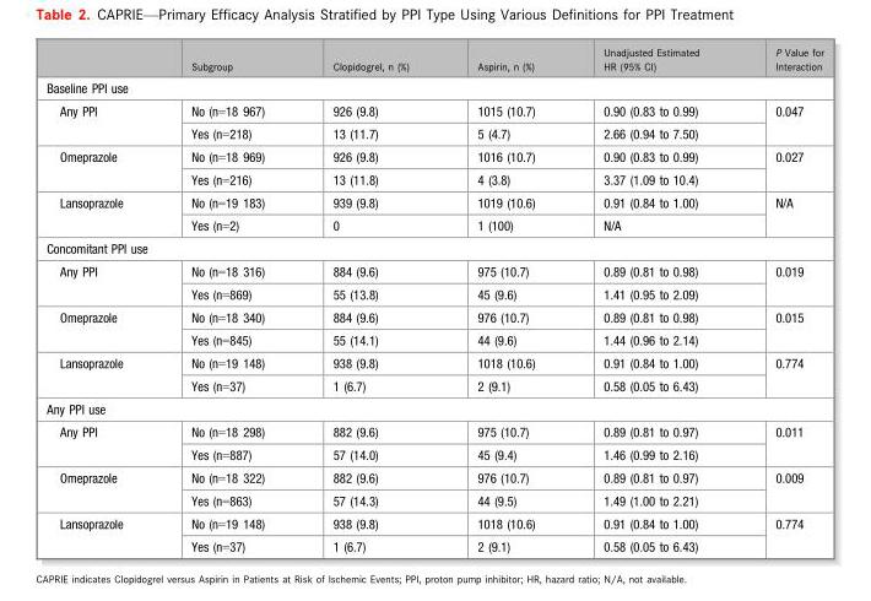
<table><thead><tr><td></td><td>Subgroup</td><td>Clopidogrel, n (%)</td><td>Aspirin, n (%)</td><td>Unadjusted Estimated HR (95% CI)</td><td>P Value for Interaction</td></tr></thead><tbody><tr><td colspan="6">Baseline PPI use</td></tr><tr><td rowspan="2">Any PPI</td><td>No (n=18 967)</td><td>926 (9.8)</td><td>1015 (10.7)</td><td>0.90 (0.83 to 0.99)</td><td rowspan="2">0.047</td></tr><tr><td>Yes (n=218)</td><td>13 (11.7)</td><td>5 (4.7)</td><td>2.66 (0.94 to 7.50)</td></tr><tr><td rowspan="2">Omeprazole</td><td>No (n=18 969)</td><td>926 (9.8)</td><td>1016 (10.7)</td><td>0.90 (0.83 to 0.99)</td><td rowspan="2">0.027</td></tr><tr><td>Yes (n=216)</td><td>13 (11.8)</td><td>4 (3.8)</td><td>3.37 (1.09 to 10.4)</td></tr><tr><td rowspan="2">Lansoprazole</td><td>No (n=19 183)</td><td>939 (9.8)</td><td>1019 (10.6)</td><td>0.91 (0.84 to 1.00)</td><td rowspan="2">N/A</td></tr><tr><td>Yes (n=2)</td><td>0</td><td>1 (100)</td><td>N/A</td></tr><tr><td colspan="6">Concomitant PPI use</td></tr><tr><td rowspan="2">Any PPI</td><td>No (n=18 316)</td><td>884 (9.6)</td><td>975 (10.7)</td><td>0.89 (0.81 to 0.98)</td><td rowspan="2">0.019</td></tr><tr><td>Yes (n=869)</td><td>55 (13.8)</td><td>45 (9.6)</td><td>1.41 (0.95 to 2.09)</td></tr><tr><td rowspan="2">Omeprazole</td><td>No (n=18 340)</td><td>884 (9.6)</td><td>976 (10.7)</td><td>0.89 (0.81 to 0.98)</td><td rowspan="2">0.015</td></tr><tr><td>Yes (n=845)</td><td>55 (14.1)</td><td>44 (9.6)</td><td>1.44 (0.96 to 2.14)</td></tr><tr><td rowspan="2">Lansoprazole</td><td>No (n=19 148)</td><td>938 (9.8)</td><td>1018 (10.6)</td><td>0.91 (0.84 to 1.00)</td><td rowspan="2">0.774</td></tr><tr><td>Yes (n=37)</td><td>1 (6.7)</td><td>2 (9.1)</td><td>0.58 (0.05 to 6.43)</td></tr><tr><td colspan="6">Any PPI use</td></tr><tr><td rowspan="2">Any PPI</td><td>No (n=18 298)</td><td>882 (9.6)</td><td>975 (10.7)</td><td>0.89 (0.81 to 0.97)</td><td rowspan="2">0.011</td></tr><tr><td>Yes (n=887)</td><td>57 (14.0)</td><td>45 (9.4)</td><td>1.46 (0.99 to 2.16)</td></tr><tr><td rowspan="2">Omeprazole</td><td>No (n=18 322)</td><td>882 (9.6)</td><td>976 (10.7)</td><td>0.89 (0.81 to 0.97)</td><td rowspan="2">0.009</td></tr><tr><td>Yes (n=863)</td><td>57 (14.3)</td><td>44 (9.5)</td><td>1.49 (1.00 to 2.21)</td></tr><tr><td rowspan="2">Lansoprazole</td><td>No (n=19 148)</td><td>938 (9.8)</td><td>1018 (10.6)</td><td>0.91 (0.84 to 1.00)</td><td rowspan="2">0.774</td></tr><tr><td>Yes (n=37)</td><td>1 (6.7)</td><td>2 (9.1)</td><td>0.58 (0.05 to 6.43)</td></tr></tbody></table>